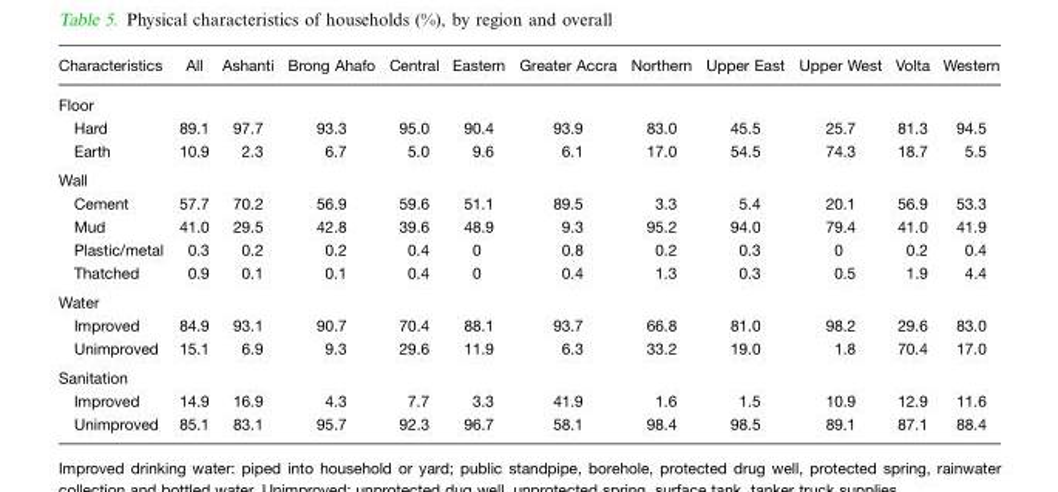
<table><thead><tr><td>Characteristics</td><td>All</td><td>Ashanti</td><td>Brong Ahafo</td><td>Central</td><td>Eastern</td><td>Greater Accra</td><td>Northern</td><td>Upper East</td><td>Upper West</td><td>Volta</td><td>Western</td></tr></thead><tbody><tr><td colspan="12">Floor</td></tr><tr><td>Hard</td><td>89.1</td><td>97.7</td><td>93.3</td><td>95.0</td><td>90.4</td><td>93.9</td><td>83.0</td><td>45.5</td><td>25.7</td><td>81.3</td><td>94.5</td></tr><tr><td>Earth</td><td>10.9</td><td>2.3</td><td>6.7</td><td>5.0</td><td>9.6</td><td>6.1</td><td>17.0</td><td>54.5</td><td>74.3</td><td>18.7</td><td>5.5</td></tr><tr><td colspan="12">Wall</td></tr><tr><td>Cement</td><td>57.7</td><td>70.2</td><td>56.9</td><td>59.6</td><td>51.1</td><td>89.5</td><td>3.3</td><td>5.4</td><td>20.1</td><td>56.9</td><td>53.3</td></tr><tr><td>Mud</td><td>41.0</td><td>29.5</td><td>42.8</td><td>39.6</td><td>48.9</td><td>9.3</td><td>95.2</td><td>94.0</td><td>79.4</td><td>41.0</td><td>41.9</td></tr><tr><td>Plastic/metal</td><td>0.3</td><td>0.2</td><td>0.2</td><td>0.4</td><td>0</td><td>0.8</td><td>0.2</td><td>0.3</td><td>0</td><td>0.2</td><td>0.4</td></tr><tr><td>Thatched</td><td>0.9</td><td>0.1</td><td>0.1</td><td>0.4</td><td>0</td><td>0.4</td><td>1.3</td><td>0.3</td><td>0.5</td><td>1.9</td><td>4.4</td></tr><tr><td colspan="12">Water</td></tr><tr><td>Improved</td><td>84.9</td><td>93.1</td><td>90.7</td><td>70.4</td><td>88.1</td><td>93.7</td><td>66.8</td><td>81.0</td><td>98.2</td><td>29.6</td><td>83.0</td></tr><tr><td>Unimproved</td><td>15.1</td><td>6.9</td><td>9.3</td><td>29.6</td><td>11.9</td><td>6.3</td><td>33.2</td><td>19.0</td><td>1.8</td><td>70.4</td><td>17.0</td></tr><tr><td colspan="12">Sanitation</td></tr><tr><td>Improved</td><td>14.9</td><td>16.9</td><td>4.3</td><td>7.7</td><td>3.3</td><td>41.9</td><td>1.6</td><td>1.5</td><td>10.9</td><td>12.9</td><td>11.6</td></tr><tr><td>Unimproved</td><td>85.1</td><td>83.1</td><td>95.7</td><td>92.3</td><td>96.7</td><td>58.1</td><td>98.4</td><td>98.5</td><td>89.1</td><td>87.1</td><td>88.4</td></tr></tbody></table>